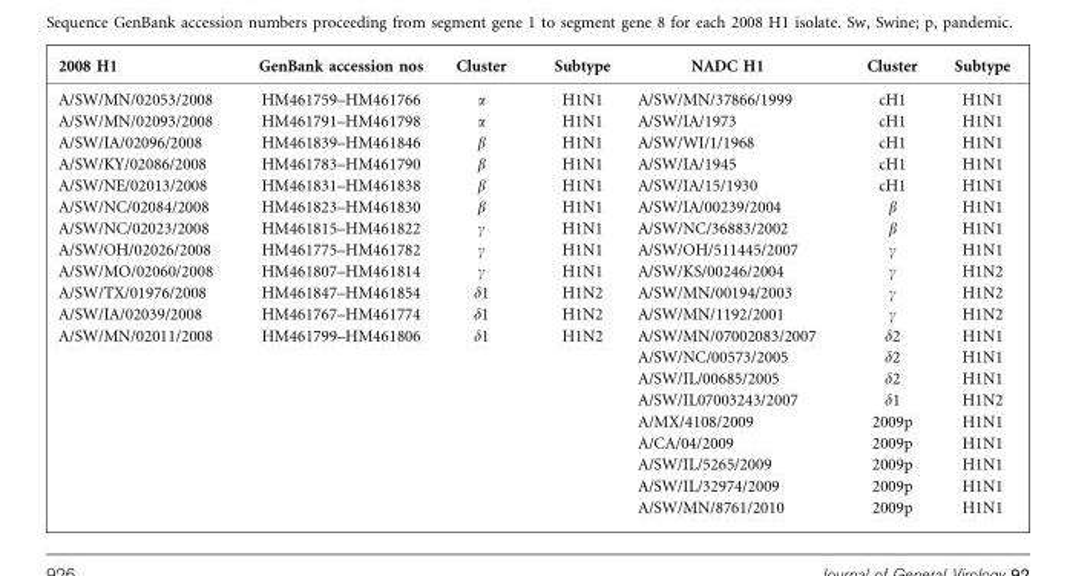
<table><thead><tr><td>2008 H1</td><td>GenBank accession nos</td><td>Cluster</td><td>Subtype</td><td>NADC H1</td><td>Cluster</td><td>Subtype</td></tr></thead><tbody><tr><td>A/SW/MN/02053/2008</td><td>HM461759–HM461766</td><td>α</td><td>H1N1</td><td>A/SW/MN/37866/1999</td><td>cH1</td><td>H1N1</td></tr><tr><td>A/SW/MN/02093/2008</td><td>HM461791–HM461798</td><td>α</td><td>H1N1</td><td>A/SW/IA/1973</td><td>cH1</td><td>H1N1</td></tr><tr><td>A/SW/IA/02096/2008</td><td>HM461839–HM461846</td><td>β</td><td>H1N1</td><td>A/SW/WI/1/1968</td><td>cH1</td><td>H1N1</td></tr><tr><td>A/SW/KY/02086/2008</td><td>HM461783–HM461790</td><td>β</td><td>H1N1</td><td>A/SW/IA/1945</td><td>cH1</td><td>H1N1</td></tr><tr><td>A/SW/NE/02013/2008</td><td>HM461831–HM461838</td><td>β</td><td>H1N1</td><td>A/SW/IA/15/1930</td><td>cH1</td><td>H1N1</td></tr><tr><td>A/SW/NC/02084/2008</td><td>HM461823–HM461830</td><td>β</td><td>H1N1</td><td>A/SW/IA/00239/2004</td><td>β</td><td>H1N1</td></tr><tr><td>A/SW/NC/02023/2008</td><td>HM461815–HM461822</td><td>γ</td><td>H1N1</td><td>A/SW/NC/36883/2002</td><td>β</td><td>H1N1</td></tr><tr><td>A/SW/OH/02026/2008</td><td>HM461775–HM461782</td><td>γ</td><td>H1N1</td><td>A/SW/OH/511445/2007</td><td>γ</td><td>H1N1</td></tr><tr><td>A/SW/MO/02060/2008</td><td>HM461807–HM461814</td><td>γ</td><td>H1N1</td><td>A/SW/KS/00246/2004</td><td>γ</td><td>H1N2</td></tr><tr><td>A/SW/TX/01976/2008</td><td>HM461847–HM461854</td><td>δ1</td><td>H1N2</td><td>A/SW/MN/00194/2003</td><td>γ</td><td>H1N2</td></tr><tr><td>A/SW/IA/02039/2008</td><td>HM461767–HM461774</td><td>δ1</td><td>H1N2</td><td>A/SW/MN/1192/2001</td><td>γ</td><td>H1N2</td></tr><tr><td rowspan="9">A/SW/MN/02011/2008</td><td>HM461799–HM461806</td><td>δ1</td><td>H1N2</td><td>A/SW/MN/07002083/2007</td><td>δ2</td><td>H1N1</td></tr><tr><td></td><td></td><td></td><td>A/SW/NC/00573/2005</td><td>δ2</td><td>H1N1</td></tr><tr><td></td><td></td><td></td><td>A/SW/IL/00685/2005</td><td>δ2</td><td>H1N1</td></tr><tr><td></td><td></td><td></td><td>A/SW/IL07003243/2007</td><td>δ1</td><td>H1N2</td></tr><tr><td></td><td></td><td></td><td>A/MX/4108/2009</td><td>2009p</td><td>H1N1</td></tr><tr><td></td><td></td><td></td><td>A/CA/04/2009</td><td>2009p</td><td>H1N1</td></tr><tr><td></td><td></td><td></td><td>A/SW/IL/5265/2009</td><td>2009p</td><td>H1N1</td></tr><tr><td></td><td></td><td></td><td>A/SW/IL/32974/2009</td><td>2009p</td><td>H1N1</td></tr><tr><td></td><td></td><td></td><td>A/SW/MN/8761/2010</td><td>2009p</td><td>H1N1</td></tr></tbody></table>